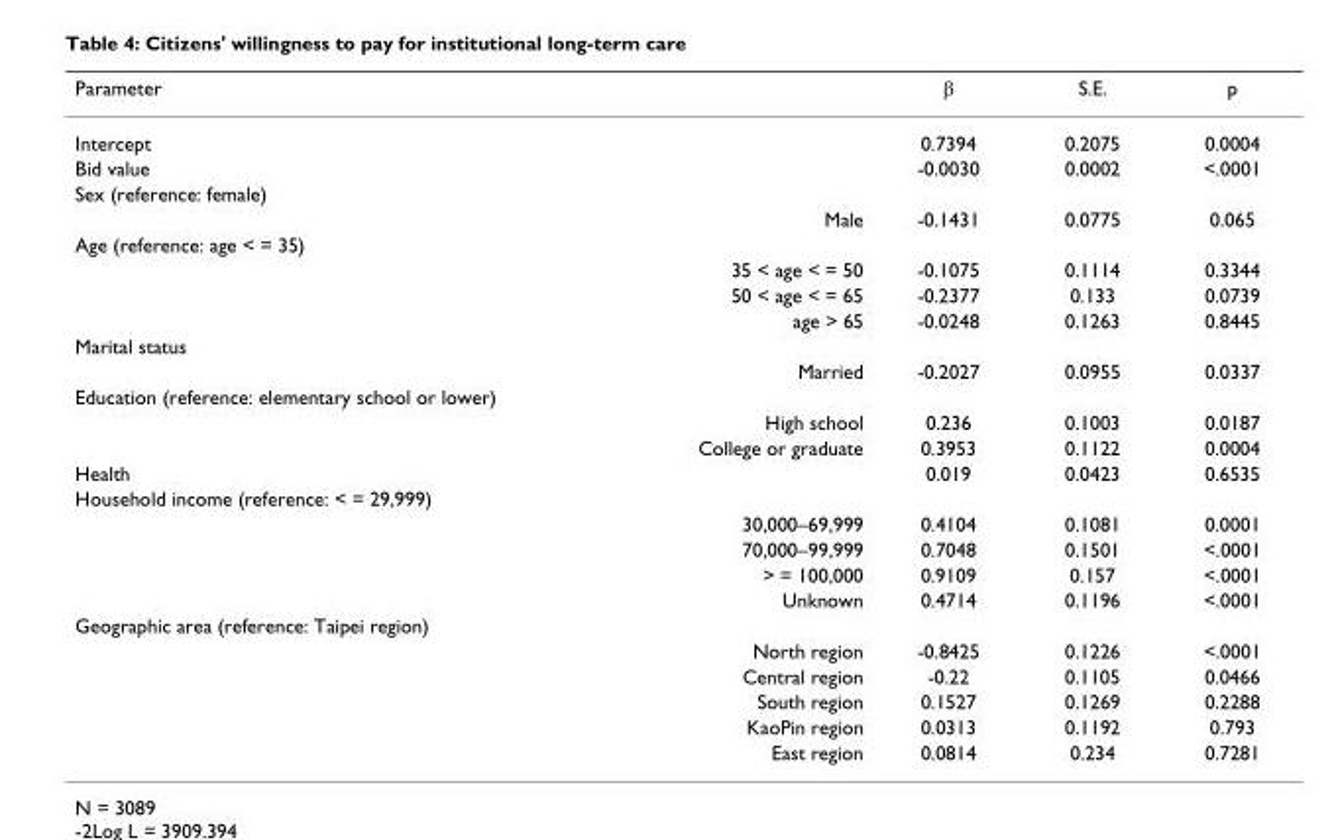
<table><thead><tr><td>Parameter</td><td>β</td><td>S.E.</td><td>p</td></tr></thead><tbody><tr><td>Intercept</td><td>0.7394</td><td>0.2075</td><td>0.0004</td></tr><tr><td>Bid value</td><td>-0.0030</td><td>0.0002</td><td>&lt;.0001</td></tr><tr><td colspan="4">Sex (reference: female)</td></tr><tr><td>Male</td><td>-0.1431</td><td>0.0775</td><td>0.065</td></tr><tr><td colspan="4">Age (reference: age &lt; = 35)</td></tr><tr><td>35 &lt; age &lt; = 50</td><td>-0.1075</td><td>0.1114</td><td>0.3344</td></tr><tr><td>50 &lt; age &lt; = 65</td><td>-0.2377</td><td>0.133</td><td>0.0739</td></tr><tr><td>age &gt; 65</td><td>-0.0248</td><td>0.1263</td><td>0.8445</td></tr><tr><td colspan="4">Marital status</td></tr><tr><td>Married</td><td>-0.2027</td><td>0.0955</td><td>0.0337</td></tr><tr><td colspan="4">Education (reference: elementary school or lower)</td></tr><tr><td>High school</td><td>0.236</td><td>0.1003</td><td>0.0187</td></tr><tr><td>College or graduate</td><td>0.3953</td><td>0.1122</td><td>0.0004</td></tr><tr><td>Health</td><td>0.019</td><td>0.0423</td><td>0.6535</td></tr><tr><td colspan="4">Household income (reference: &lt; = 29,999)</td></tr><tr><td>30,000–69,999</td><td>0.4104</td><td>0.1081</td><td>0.0001</td></tr><tr><td>70,000–99,999</td><td>0.7048</td><td>0.1501</td><td>&lt;.0001</td></tr><tr><td>&gt; = 100,000</td><td>0.9109</td><td>0.157</td><td>&lt;.0001</td></tr><tr><td>Unknown</td><td>0.4714</td><td>0.1196</td><td>&lt;.0001</td></tr><tr><td colspan="4">Geographic area (reference: Taipei region)</td></tr><tr><td>North region</td><td>-0.8425</td><td>0.1226</td><td>&lt;.0001</td></tr><tr><td>Central region</td><td>-0.22</td><td>0.1105</td><td>0.0466</td></tr><tr><td>South region</td><td>0.1527</td><td>0.1269</td><td>0.2288</td></tr><tr><td>KaoPin region</td><td>0.0313</td><td>0.1192</td><td>0.793</td></tr><tr><td>East region</td><td>0.0814</td><td>0.234</td><td>0.7281</td></tr></tbody></table>